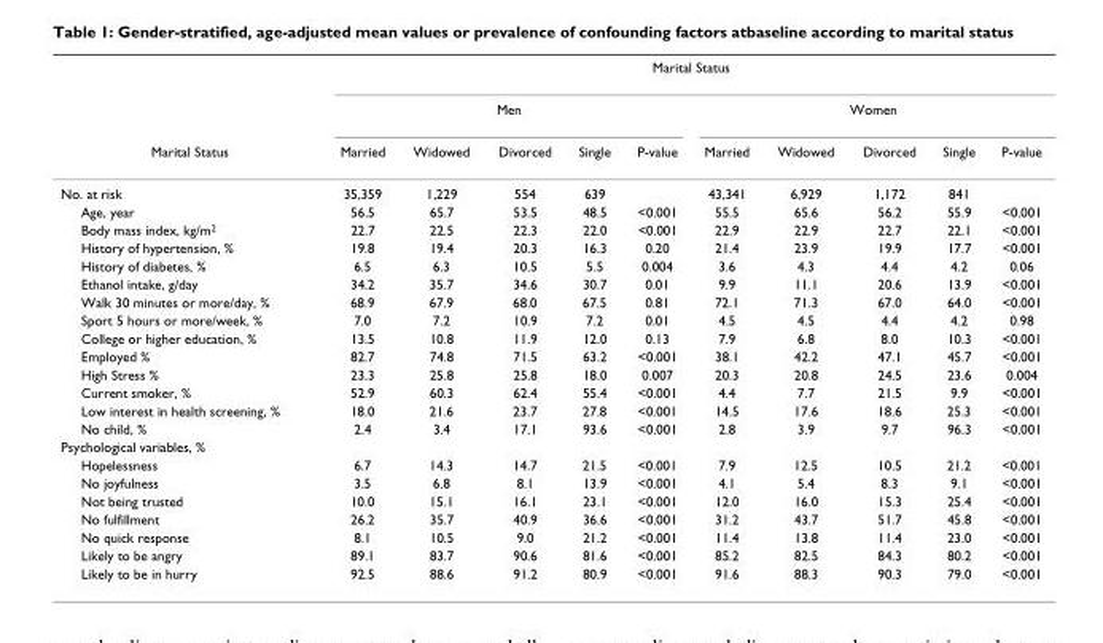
<table><thead><tr><td rowspan="3">Marital Status</td><td colspan="10">Marital Status</td></tr><tr><td colspan="5">Men</td><td colspan="5">Women</td></tr><tr><td>Married</td><td>Widowed</td><td>Divorced</td><td>Single</td><td>P-value</td><td>Married</td><td>Widowed</td><td>Divorced</td><td>Single</td><td>P-value</td></tr></thead><tbody><tr><td>No. at risk</td><td>35,359</td><td>1,229</td><td>554</td><td>639</td><td></td><td>43,341</td><td>6,929</td><td>1,172</td><td>841</td><td></td></tr><tr><td>Age, year</td><td>56.5</td><td>65.7</td><td>53.5</td><td>48.5</td><td>&lt;0.001</td><td>55.5</td><td>65.6</td><td>56.2</td><td>55.9</td><td>&lt;0.001</td></tr><tr><td>Body mass index, kg/m<sup>2</sup></td><td>22.7</td><td>22.5</td><td>22.3</td><td>22.0</td><td>&lt;0.001</td><td>22.9</td><td>22.9</td><td>22.7</td><td>22.1</td><td>&lt;0.001</td></tr><tr><td>History of hypertension, %</td><td>19.8</td><td>19.4</td><td>20.3</td><td>16.3</td><td>0.20</td><td>21.4</td><td>23.9</td><td>19.9</td><td>17.7</td><td>&lt;0.001</td></tr><tr><td>History of diabetes, %</td><td>6.5</td><td>6.3</td><td>10.5</td><td>5.5</td><td>0.004</td><td>3.6</td><td>4.3</td><td>4.4</td><td>4.2</td><td>0.06</td></tr><tr><td>Ethanol intake, g/day</td><td>34.2</td><td>35.7</td><td>34.6</td><td>30.7</td><td>0.01</td><td>9.9</td><td>11.1</td><td>20.6</td><td>13.9</td><td>&lt;0.001</td></tr><tr><td>Walk 30 minutes or more/day, %</td><td>68.9</td><td>67.9</td><td>68.0</td><td>67.5</td><td>0.81</td><td>72.1</td><td>71.3</td><td>67.0</td><td>64.0</td><td>&lt;0.001</td></tr><tr><td>Sport 5 hours or more/week, %</td><td>7.0</td><td>7.2</td><td>10.9</td><td>7.2</td><td>0.01</td><td>4.5</td><td>4.5</td><td>4.4</td><td>4.2</td><td>0.98</td></tr><tr><td>College or higher education, %</td><td>13.5</td><td>10.8</td><td>11.9</td><td>12.0</td><td>0.13</td><td>7.9</td><td>6.8</td><td>8.0</td><td>10.3</td><td>&lt;0.001</td></tr><tr><td>Employed %</td><td>82.7</td><td>74.8</td><td>71.5</td><td>63.2</td><td>&lt;0.001</td><td>38.1</td><td>42.2</td><td>47.1</td><td>45.7</td><td>&lt;0.001</td></tr><tr><td>High Stress %</td><td>23.3</td><td>25.8</td><td>25.8</td><td>18.0</td><td>0.007</td><td>20.3</td><td>20.8</td><td>24.5</td><td>23.6</td><td>0.004</td></tr><tr><td>Current smoker, %</td><td>52.9</td><td>60.3</td><td>62.4</td><td>55.4</td><td>&lt;0.001</td><td>4.4</td><td>7.7</td><td>21.5</td><td>9.9</td><td>&lt;0.001</td></tr><tr><td>Low interest in health screening, %</td><td>18.0</td><td>21.6</td><td>23.7</td><td>27.8</td><td>&lt;0.001</td><td>14.5</td><td>17.6</td><td>18.6</td><td>25.3</td><td>&lt;0.001</td></tr><tr><td>No child, %</td><td>2.4</td><td>3.4</td><td>17.1</td><td>93.6</td><td>&lt;0.001</td><td>2.8</td><td>3.9</td><td>9.7</td><td>96.3</td><td>&lt;0.001</td></tr><tr><td colspan="11">Psychological variables, %</td></tr><tr><td>Hopelessness</td><td>6.7</td><td>14.3</td><td>14.7</td><td>21.5</td><td>&lt;0.001</td><td>7.9</td><td>12.5</td><td>10.5</td><td>21.2</td><td>&lt;0.001</td></tr><tr><td>No joyfulness</td><td>3.5</td><td>6.8</td><td>8.1</td><td>13.9</td><td>&lt;0.001</td><td>4.1</td><td>5.4</td><td>8.3</td><td>9.1</td><td>&lt;0.001</td></tr><tr><td>Not being trusted</td><td>10.0</td><td>15.1</td><td>16.1</td><td>23.1</td><td>&lt;0.001</td><td>12.0</td><td>16.0</td><td>15.3</td><td>25.4</td><td>&lt;0.001</td></tr><tr><td>No fulfillment</td><td>26.2</td><td>35.7</td><td>40.9</td><td>36.6</td><td>&lt;0.001</td><td>31.2</td><td>43.7</td><td>51.7</td><td>45.8</td><td>&lt;0.001</td></tr><tr><td>No quick response</td><td>8.1</td><td>10.5</td><td>9.0</td><td>21.2</td><td>&lt;0.001</td><td>11.4</td><td>13.8</td><td>11.4</td><td>23.0</td><td>&lt;0.001</td></tr><tr><td>Likely to be angry</td><td>89.1</td><td>83.7</td><td>90.6</td><td>81.6</td><td>&lt;0.001</td><td>85.2</td><td>82.5</td><td>84.3</td><td>80.2</td><td>&lt;0.001</td></tr><tr><td>Likely to be in hurry</td><td>92.5</td><td>88.6</td><td>91.2</td><td>80.9</td><td>&lt;0.001</td><td>91.6</td><td>88.3</td><td>90.3</td><td>79.0</td><td>&lt;0.001</td></tr></tbody></table>